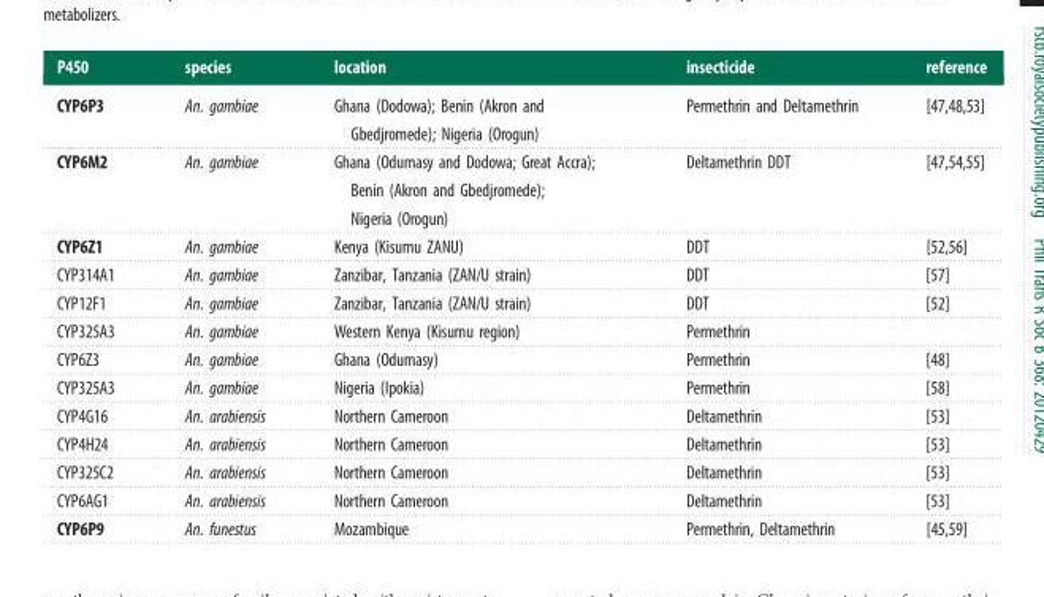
<table><thead><tr><td>P450</td><td>species</td><td>location</td><td>insecticide</td><td>reference</td></tr></thead><tbody><tr><td>CYP6P3</td><td>An. gambiae</td><td>Ghana (Dodowa); Benin (Akron and Gbedjromede); Nigeria (Orogun)</td><td>Permethrin and Deltamethrin</td><td>[47,48,53]</td></tr><tr><td>CYP6M2</td><td>An. gambiae</td><td>Ghana (Odumasy and Dodowa; Great Accra); Benin (Akron and Gbedjromede); Nigeria (Orogun)</td><td>Deltamethrin DDT</td><td>[47,54,55]</td></tr><tr><td>CYP6Z1</td><td>An. gambiae</td><td>Kenya (Kisumu ZANU)</td><td>DDT</td><td>[52,56]</td></tr><tr><td>CYP314A1</td><td>An. gambiae</td><td>Zanzibar, Tanzania (ZAN/U strain)</td><td>DDT</td><td>[57]</td></tr><tr><td>CYP12F1</td><td>An. gambiae</td><td>Zanzibar, Tanzania (ZAN/U strain)</td><td>DDT</td><td>[52]</td></tr><tr><td>CYP325A3</td><td>An. gambiae</td><td>Western Kenya (Kisumu region)</td><td>Permethrin</td><td></td></tr><tr><td>CYP6Z3</td><td>An. gambiae</td><td>Ghana (Odumasy)</td><td>Permethrin</td><td>[48]</td></tr><tr><td>CYP325A3</td><td>An. gambiae</td><td>Nigeria (Ipokia)</td><td>Permethrin</td><td>[58]</td></tr><tr><td>CYP4G16</td><td>An. arabiensis</td><td>Northern Cameroon</td><td>Deltamethrin</td><td>[53]</td></tr><tr><td>CYP4H24</td><td>An. arabiensis</td><td>Northern Cameroon</td><td>Deltamethrin</td><td>[53]</td></tr><tr><td>CYP325C2</td><td>An. arabiensis</td><td>Northern Cameroon</td><td>Deltamethrin</td><td>[53]</td></tr><tr><td>CYP6AG1</td><td>An. arabiensis</td><td>Northern Cameroon</td><td>Deltamethrin</td><td>[53]</td></tr><tr><td>CYP6P9</td><td>An. funestus</td><td>Mozambique</td><td>Permethrin, Deltamethrin</td><td>[45,59]</td></tr></tbody></table>